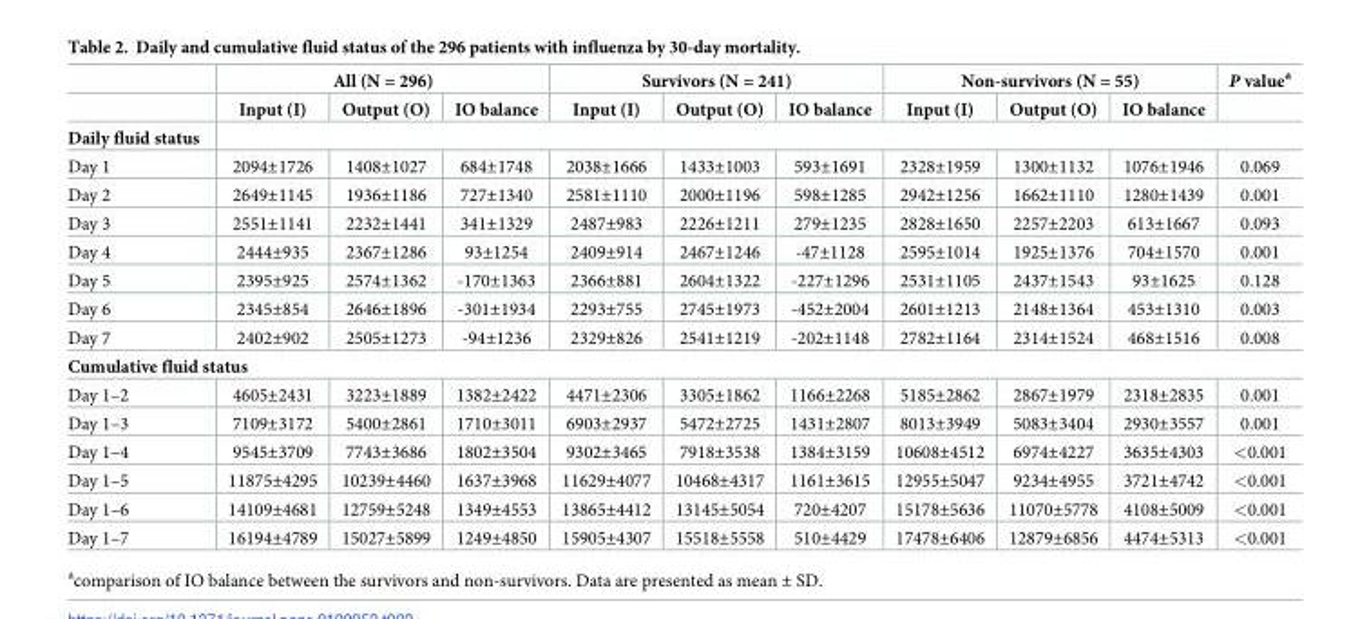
<table><thead><tr><td rowspan="2"></td><td colspan="3">All (N = 296)</td><td colspan="3">Survivors (N = 241)</td><td colspan="3">Non-survivors (N = 55)</td><td rowspan="2">P value<sup>a</sup></td></tr><tr><td>Input (I)</td><td>Output (O)</td><td>IO balance</td><td>Input (I)</td><td>Output (O)</td><td>IO balance</td><td>Input (I)</td><td>Output (O)</td><td>IO balance</td></tr></thead><tbody><tr><td colspan="11">Daily fluid status</td></tr><tr><td>Day 1</td><td>2094±1726</td><td>1408±1027</td><td>684±1748</td><td>2038±1666</td><td>1433±1003</td><td>593±1691</td><td>2328±1959</td><td>1300±1132</td><td>1076±1946</td><td>0.069</td></tr><tr><td>Day 2</td><td>2649±1145</td><td>1936±1186</td><td>727±1340</td><td>2581±1110</td><td>2000±1196</td><td>598±1285</td><td>2942±1256</td><td>1662±1110</td><td>1280±1439</td><td>0.001</td></tr><tr><td>Day 3</td><td>2551±1141</td><td>2232±1441</td><td>341±1329</td><td>2487±983</td><td>2226±1211</td><td>279±1235</td><td>2828±1650</td><td>2257±2203</td><td>613±1667</td><td>0.093</td></tr><tr><td>Day 4</td><td>2444±935</td><td>2367±1286</td><td>93±1254</td><td>2409±914</td><td>2467±1246</td><td>-47±1128</td><td>2595±1014</td><td>1925±1376</td><td>704±1570</td><td>0.001</td></tr><tr><td>Day 5</td><td>2395±925</td><td>2574±1362</td><td>-170±1363</td><td>2366±881</td><td>2604±1322</td><td>-227±1296</td><td>2531±1105</td><td>2437±1543</td><td>93±1625</td><td>0.128</td></tr><tr><td>Day 6</td><td>2345±854</td><td>2646±1896</td><td>-301±1934</td><td>2293±755</td><td>2745±1973</td><td>-452±2004</td><td>2601±1213</td><td>2148±1364</td><td>453±1310</td><td>0.003</td></tr><tr><td>Day 7</td><td>2402±902</td><td>2505±1273</td><td>-94±1236</td><td>2329±826</td><td>2541±1219</td><td>-202±1148</td><td>2782±1164</td><td>2314±1524</td><td>468±1516</td><td>0.008</td></tr><tr><td colspan="11">Cumulative fluid status</td></tr><tr><td>Day 1–2</td><td>4605±2431</td><td>3223±1889</td><td>1382±2422</td><td>4471±2306</td><td>3305±1862</td><td>1166±2268</td><td>5185±2862</td><td>2867±1979</td><td>2318±2835</td><td>0.001</td></tr><tr><td>Day 1–3</td><td>7109±3172</td><td>5400±2861</td><td>1710±3011</td><td>6903±2937</td><td>5472±2725</td><td>1431±2807</td><td>8013±3949</td><td>5083±3404</td><td>2930±3557</td><td>0.001</td></tr><tr><td>Day 1–4</td><td>9545±3709</td><td>7743±3686</td><td>1802±3504</td><td>9302±3465</td><td>7918±3538</td><td>1384±3159</td><td>10608±4512</td><td>6974±4227</td><td>3635±4303</td><td>&lt;0.001</td></tr><tr><td>Day 1–5</td><td>11875±4295</td><td>10239±4460</td><td>1637±3968</td><td>11629±4077</td><td>10468±4317</td><td>1161±3615</td><td>12955±5047</td><td>9234±4955</td><td>3721±4742</td><td>&lt;0.001</td></tr><tr><td>Day 1–6</td><td>14109±4681</td><td>12759±5248</td><td>1349±4553</td><td>13865±4412</td><td>13145±5054</td><td>720±4207</td><td>15178±5636</td><td>11070±5778</td><td>4108±5009</td><td>&lt;0.001</td></tr><tr><td>Day 1–7</td><td>16194±4789</td><td>15027±5899</td><td>1249±4850</td><td>15905±4307</td><td>15518±5558</td><td>510±4429</td><td>17478±6406</td><td>12879±6856</td><td>4474±5313</td><td>&lt;0.001</td></tr></tbody></table>